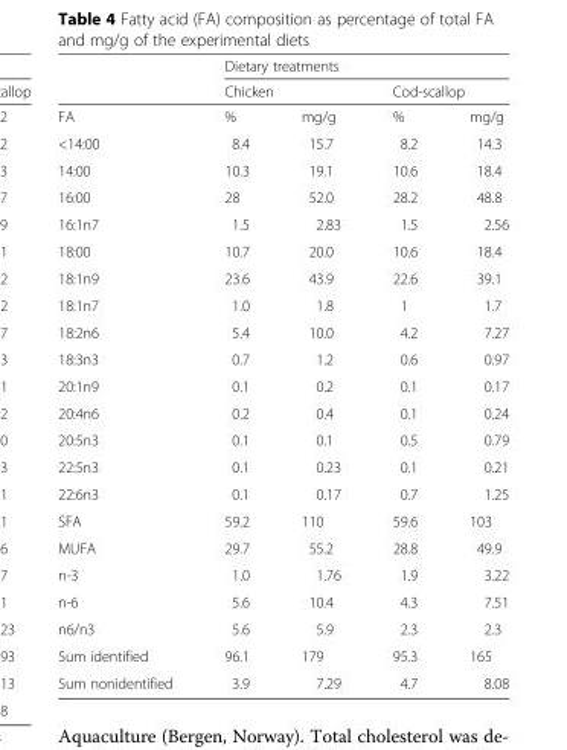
<table><thead><tr><td rowspan="3">FA</td><td colspan="4">Dietary treatments</td></tr><tr><td colspan="2">Chicken</td><td colspan="2">Cod-scallop</td></tr><tr><td>%</td><td>mg/g</td><td>%</td><td>mg/g</td></tr></thead><tbody><tr><td>&lt;14:00</td><td>8.4</td><td>15.7</td><td>8.2</td><td>14.3</td></tr><tr><td>14:00</td><td>10.3</td><td>19.1</td><td>10.6</td><td>18.4</td></tr><tr><td>16:00</td><td>28</td><td>52.0</td><td>28.2</td><td>48.8</td></tr><tr><td>16:1n7</td><td>1.5</td><td>2.83</td><td>1.5</td><td>2.56</td></tr><tr><td>18:00</td><td>10.7</td><td>20.0</td><td>10.6</td><td>18.4</td></tr><tr><td>18:1n9</td><td>23.6</td><td>43.9</td><td>22.6</td><td>39.1</td></tr><tr><td>18:1n7</td><td>1.0</td><td>1.8</td><td>1</td><td>1.7</td></tr><tr><td>18:2n6</td><td>5.4</td><td>10.0</td><td>4.2</td><td>7.27</td></tr><tr><td>18:3n3</td><td>0.7</td><td>1.2</td><td>0.6</td><td>0.97</td></tr><tr><td>20:1n9</td><td>0.1</td><td>0.2</td><td>0.1</td><td>0.17</td></tr><tr><td>20:4n6</td><td>0.2</td><td>0.4</td><td>0.1</td><td>0.24</td></tr><tr><td>20:5n3</td><td>0.1</td><td>0.1</td><td>0.5</td><td>0.79</td></tr><tr><td>22:5n3</td><td>0.1</td><td>0.23</td><td>0.1</td><td>0.21</td></tr><tr><td>22:6n3</td><td>0.1</td><td>0.17</td><td>0.7</td><td>1.25</td></tr><tr><td>SFA</td><td>59.2</td><td>110</td><td>59.6</td><td>103</td></tr><tr><td>MUFA</td><td>29.7</td><td>55.2</td><td>28.8</td><td>49.9</td></tr><tr><td>n-3</td><td>1.0</td><td>1.76</td><td>1.9</td><td>3.22</td></tr><tr><td>n-6</td><td>5.6</td><td>10.4</td><td>4.3</td><td>7.51</td></tr><tr><td>n6/n3</td><td>5.6</td><td>5.9</td><td>2.3</td><td>2.3</td></tr><tr><td>Sum identified</td><td>96.1</td><td>179</td><td>95.3</td><td>165</td></tr><tr><td>Sum nonidentified</td><td>3.9</td><td>7.29</td><td>4.7</td><td>8.08</td></tr></tbody></table>